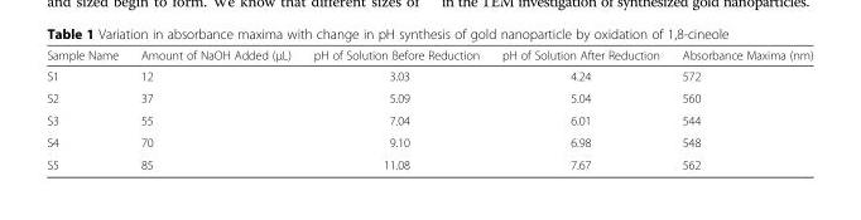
<table><thead><tr><td>Sample Name</td><td>Amount of NaOH Added (μL)</td><td>pH of Solution Before Reduction</td><td>pH of Solution After Reduction</td><td>Absorbance Maxima (nm)</td></tr></thead><tbody><tr><td>S1</td><td>12</td><td>3.03</td><td>4.24</td><td>572</td></tr><tr><td>S2</td><td>37</td><td>5.09</td><td>5.04</td><td>560</td></tr><tr><td>S3</td><td>55</td><td>7.04</td><td>6.01</td><td>544</td></tr><tr><td>S4</td><td>70</td><td>9.10</td><td>6.98</td><td>548</td></tr><tr><td>S5</td><td>85</td><td>11.08</td><td>7.67</td><td>562</td></tr></tbody></table>